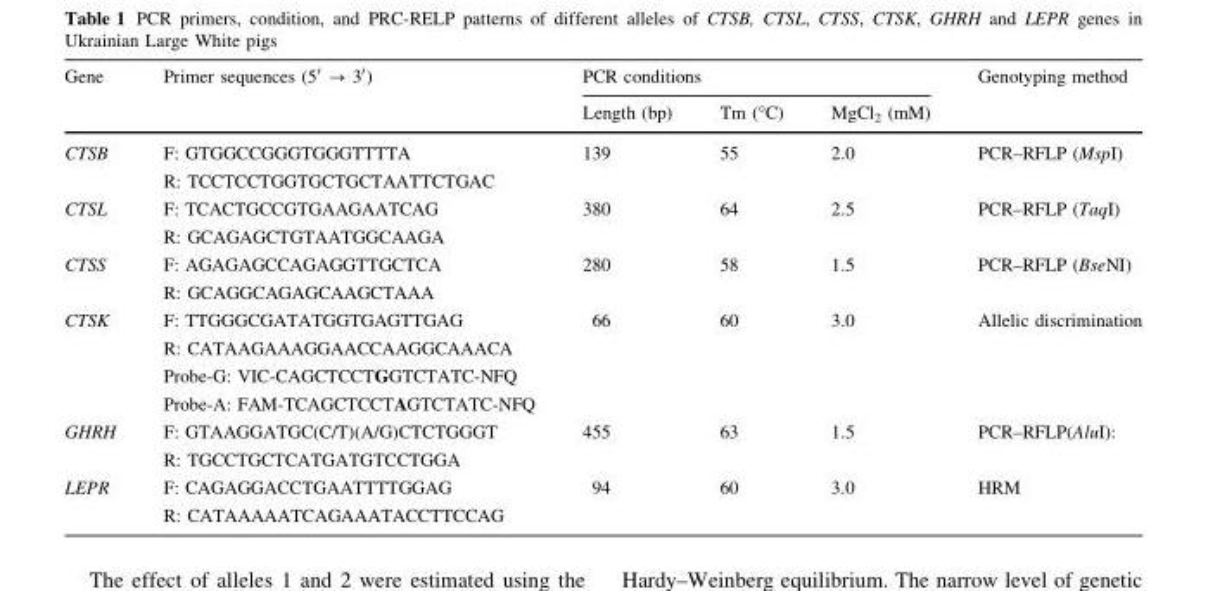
<table><thead><tr><td rowspan="2">Gene</td><td rowspan="2">Primer sequences (5′ → 3′)</td><td colspan="3">PCR conditions</td><td rowspan="2">Genotyping method</td></tr><tr><td>Length (bp)</td><td>Tm (°C)</td><td>MgCl<sub>2</sub> (mM)</td></tr></thead><tbody><tr><td>CTSB</td><td>F: GTGGCCGGGTGGGTTTTA R: TCCTCCTGGTGCTGCTAATTCTGAC</td><td>139</td><td>55</td><td>2.0</td><td>PCR–RFLP (MspI)</td></tr><tr><td>CTSL</td><td>F: TCACTGCCGTGAAGAATCAG R: GCAGAGCTGTAATGGCAAGA</td><td>380</td><td>64</td><td>2.5</td><td>PCR–RFLP (TaqI)</td></tr><tr><td>CTSS</td><td>F: AGAGAGCCAGAGGTTGCTCA R: GCAGGCAGAGCAAGCTAAA</td><td>280</td><td>58</td><td>1.5</td><td>PCR–RFLP (BseNI)</td></tr><tr><td>CTSK</td><td>F: TTGGGCGATATGGTGAGTTGAG R: CATAAGAAAGGAACCAAGGCAAACA Probe-G: VIC-CAGCTCCTGGTCTATC-NFQ Probe-A: FAM-TCAGCTCCTAGTCTATC-NFQ</td><td>66</td><td>60</td><td>3.0</td><td>Allelic discrimination</td></tr><tr><td>GHRH</td><td>F: GTAAGGATGC(C/T)(A/G)CTCTGGGT R: TGCCTGCTCATGATGTCCTGGA</td><td>455</td><td>63</td><td>1.5</td><td>PCR–RFLP(AluI):</td></tr><tr><td>LEPR</td><td>F: CAGAGGACCTGAATTTTGGAG R: CATAAAAATCAGAAATACCTTCCAG</td><td>94</td><td>60</td><td>3.0</td><td>HRM</td></tr></tbody></table>